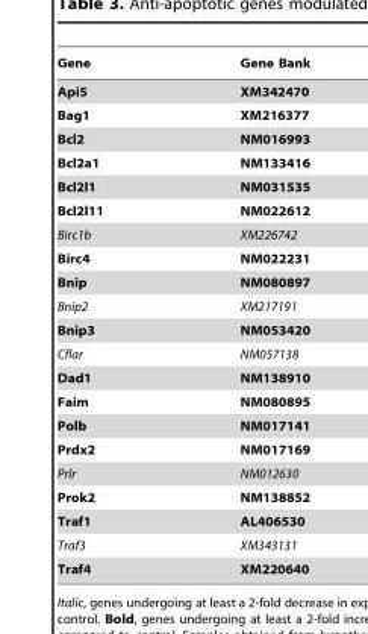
<table><thead><tr><td>Gene</td><td>Gene Bank</td></tr></thead><tbody><tr><td>Api5</td><td>XM342470</td></tr><tr><td>Bag1</td><td>XM216377</td></tr><tr><td>Bcl2</td><td>NM016993</td></tr><tr><td>Bcl2a1</td><td>NM133416</td></tr><tr><td>Bcl2l1</td><td>NM031535</td></tr><tr><td>Bcl2l11</td><td>NM022612</td></tr><tr><td>Birc1b</td><td>XM226742</td></tr><tr><td>Birc4</td><td>NM022231</td></tr><tr><td>Bnip</td><td>NM080897</td></tr><tr><td>Bnip2</td><td>XM217191</td></tr><tr><td>Bnip3</td><td>NM053420</td></tr><tr><td>Cflar</td><td>NM057138</td></tr><tr><td>Dad1</td><td>NM138910</td></tr><tr><td>Faim</td><td>NM080895</td></tr><tr><td>Polb</td><td>NM017141</td></tr><tr><td>Prdx2</td><td>NM017169</td></tr><tr><td>Prlr</td><td>NM012630</td></tr><tr><td>Prok2</td><td>NM138852</td></tr><tr><td>Traf1</td><td>AL406530</td></tr><tr><td>Traf3</td><td>XM343131</td></tr><tr><td>Traf4</td><td>XM220640</td></tr></tbody></table>